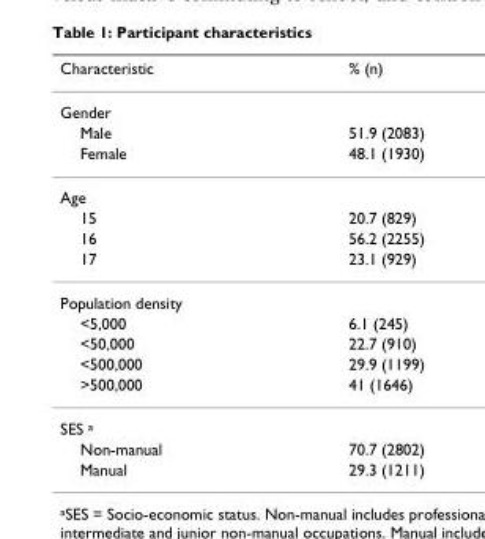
<table><thead><tr><td>Characteristic</td><td>% (n)</td></tr></thead><tbody><tr><td colspan="2">Gender</td></tr><tr><td>Male</td><td>51.9 (2083)</td></tr><tr><td>Female</td><td>48.1 (1930)</td></tr><tr><td colspan="2">Age</td></tr><tr><td>15</td><td>20.7 (829)</td></tr><tr><td>16</td><td>56.2 (2255)</td></tr><tr><td>17</td><td>23.1 (929)</td></tr><tr><td colspan="2">Population density</td></tr><tr><td>&lt;5,000</td><td>6.1 (245)</td></tr><tr><td>&lt;50,000</td><td>22.7 (910)</td></tr><tr><td>&lt;500,000</td><td>29.9 (1199)</td></tr><tr><td>&gt;500,000</td><td>41 (1646)</td></tr><tr><td colspan="2">SES <sup>a</sup></td></tr><tr><td>Non-manual</td><td>70.7 (2802)</td></tr><tr><td>Manual</td><td>29.3 (1211)</td></tr></tbody></table>